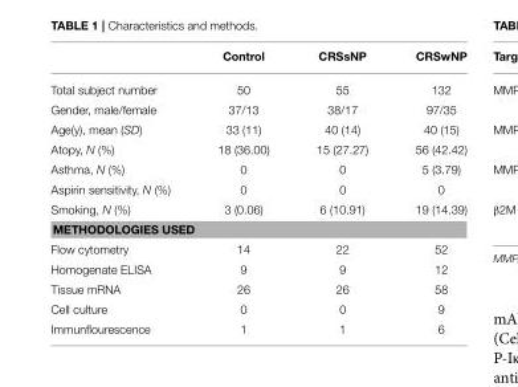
<table><thead><tr><td></td><td>Control</td><td>CRSsNP</td><td>CRSwNP</td></tr></thead><tbody><tr><td>Total subject number</td><td>50</td><td>55</td><td>132</td></tr><tr><td>Gender, male/female</td><td>37/13</td><td>38/17</td><td>97/35</td></tr><tr><td>Age(y), mean (SD)</td><td>33 (11)</td><td>40 (14)</td><td>40 (15)</td></tr><tr><td>Atopy, N (%)</td><td>18 (36.00)</td><td>15 (27.27)</td><td>56 (42.42)</td></tr><tr><td>Asthma, N (%)</td><td>0</td><td>0</td><td>5 (3.79)</td></tr><tr><td>Aspirin sensitivity, N (%)</td><td>0</td><td>0</td><td>0</td></tr><tr><td>Smoking, N (%)</td><td>3 (0.06)</td><td>6 (10.91)</td><td>19 (14.39)</td></tr><tr><td colspan="4">METHODOLOGIES USED</td></tr><tr><td>Flow cytometry</td><td>14</td><td>22</td><td>52</td></tr><tr><td>Homogenate ELISA</td><td>9</td><td>9</td><td>12</td></tr><tr><td>Tissue mRNA</td><td>26</td><td>26</td><td>58</td></tr><tr><td>Cell culture</td><td>0</td><td>0</td><td>9</td></tr><tr><td>Immunflourescence</td><td>1</td><td>1</td><td>6</td></tr></tbody></table>